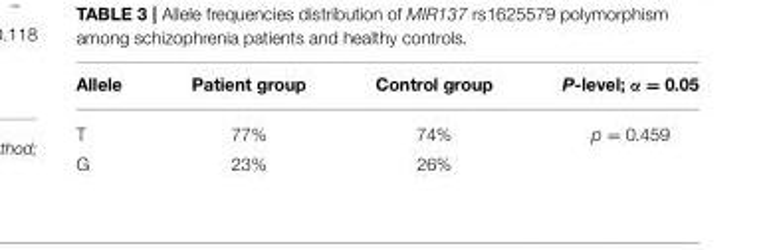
<table><thead><tr><td>Allele</td><td>Patient group</td><td>Control group</td><td>P-level; α = 0.05</td></tr></thead><tbody><tr><td>T</td><td>77%</td><td>74%</td><td>p = 0.459</td></tr><tr><td>G</td><td>23%</td><td>26%</td><td></td></tr></tbody></table>